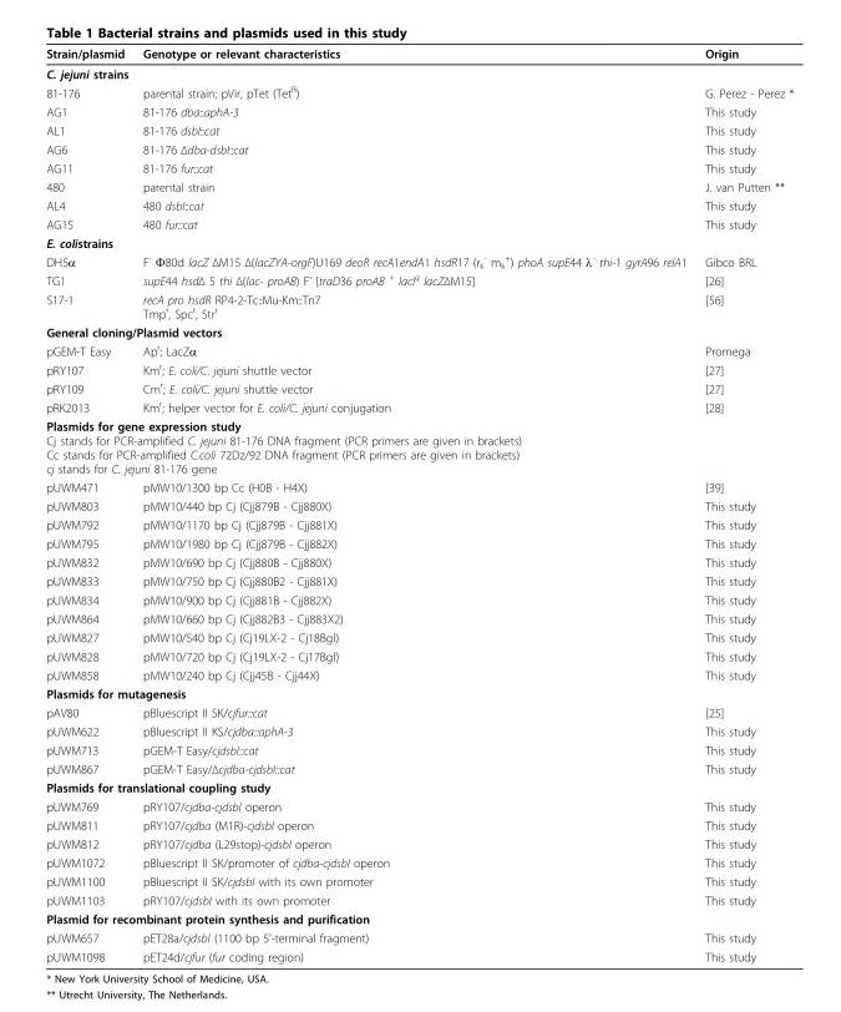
<table><thead><tr><td>Strain/plasmid</td><td>Genotype or relevant characteristics</td><td>Origin</td></tr></thead><tbody><tr><td colspan="3">C. jejuni strains</td></tr><tr><td>81-176</td><td>parental strain; pVir, pTet (Tet<sup>R</sup>)</td><td>G. Perez - Perez *</td></tr><tr><td>AG1</td><td>81-176 dba::aphA-3</td><td>This study</td></tr><tr><td>AL1</td><td>81-176 dsbI::cat</td><td>This study</td></tr><tr><td>AG6</td><td>81-176 Δdba-dsbI::cat</td><td>This study</td></tr><tr><td>AG11</td><td>81-176 fur::cat</td><td>This study</td></tr><tr><td>480</td><td>parental strain</td><td>J. van Putten **</td></tr><tr><td>AL4</td><td>480 dsbI::cat</td><td>This study</td></tr><tr><td>AG15</td><td>480 fur::cat</td><td>This study</td></tr><tr><td colspan="3">E. colistrains</td></tr><tr><td>DH5α</td><td>F<sup>-</sup> Φ80d lacZ ΔM15 Δ(lacZYA-orgF)U169 deoR recA1endA1 hsdR17 (r<sub>k</sub> <sup>-</sup> m<sub>k</sub> <sup>+</sup>) phoA supE44 λ<sup>-</sup> thi-1 gyrA96 relA1</td><td>Gibco BRL</td></tr><tr><td>TG1</td><td>supE44 hsdΔ 5 thi Δ(lac- proAB) F’ [traD36 proAB <sup>+</sup> lacI<sup>q</sup> lacZΔM15]</td><td>[26]</td></tr><tr><td>S17-1</td><td>recA pro hsdR RP4-2-Tc::Mu-Km::Tn7 Tmp<sup>r</sup>, Spc<sup>r</sup>, Str<sup>r</sup></td><td>[56]</td></tr><tr><td colspan="3">General cloning/Plasmid vectors</td></tr><tr><td>pGEM-T Easy</td><td>Ap<sup>r</sup>; LacZα</td><td>Promega</td></tr><tr><td>pRY107</td><td>Km<sup>r</sup>; E. coli/C. jejuni shuttle vector</td><td>[27]</td></tr><tr><td>pRY109</td><td>Cm<sup>r</sup>; E. coli/C. jejuni shuttle vector</td><td>[27]</td></tr><tr><td>pRK2013</td><td>Km<sup>r</sup>; helper vector for E. coli/C. jejuni conjugation</td><td>[28]</td></tr><tr><td colspan="3">Plasmids for gene expression study Cj stands for PCR-amplified C. jejuni 81-176 DNA fragment (PCR primers are given in brackets) Cc stands for PCR-amplified C.coli 72Dz/92 DNA fragment (PCR primers are given in brackets) cj stands for C. jejuni 81-176 gene</td></tr><tr><td>pUWM471</td><td>pMW10/1300 bp Cc (H0B - H4X)</td><td>[39]</td></tr><tr><td>pUWM803</td><td>pMW10/440 bp Cj (Cjj879B - Cjj880X)</td><td>This study</td></tr><tr><td>pUWM792</td><td>pMW10/1170 bp Cj (Cjj879B - Cjj881X)</td><td>This study</td></tr><tr><td>pUWM795</td><td>pMW10/1980 bp Cj (Cjj879B - Cjj882X)</td><td>This study</td></tr><tr><td>pUWM832</td><td>pMW10/690 bp Cj (Cjj880B - Cjj880X)</td><td>This study</td></tr><tr><td>pUWM833</td><td>pMW10/750 bp Cj (Cjj880B2 - Cjj881X)</td><td>This study</td></tr><tr><td>pUWM834</td><td>pMW10/900 bp Cj (Cjj881B - Cjj882X)</td><td>This study</td></tr><tr><td>pUWM864</td><td>pMW10/660 bp Cj (Cjj882B3 - Cjj883X2)</td><td>This study</td></tr><tr><td>pUWM827</td><td>pMW10/540 bp Cj (Cj19LX-2 - Cj18Bgl)</td><td>This study</td></tr><tr><td>pUWM828</td><td>pMW10/720 bp Cj (Cj19LX-2 - Cj17Bgl)</td><td>This study</td></tr><tr><td>pUWM858</td><td>pMW10/240 bp Cj (Cjj45B - Cjj44X)</td><td>This study</td></tr><tr><td colspan="3">Plasmids for mutagenesis</td></tr><tr><td>pAV80</td><td>pBluescript II SK/cjfur::cat</td><td>[25]</td></tr><tr><td>pUWM622</td><td>pBluescript II KS/cjdba::aphA-3</td><td>This study</td></tr><tr><td>pUWM713</td><td>pGEM-T Easy/cjdsbI::cat</td><td>This study</td></tr><tr><td>pUWM867</td><td>pGEM-T Easy/Δcjdba-cjdsbI::cat</td><td>This study</td></tr><tr><td colspan="3">Plasmids for translational coupling study</td></tr><tr><td>pUWM769</td><td>pRY107/cjdba-cjdsbI operon</td><td>This study</td></tr><tr><td>pUWM811</td><td>pRY107/cjdba (M1R)-cjdsbI operon</td><td>This study</td></tr><tr><td>pUWM812</td><td>pRY107/cjdba (L29stop)-cjdsbI operon</td><td>This study</td></tr><tr><td>pUWM1072</td><td>pBluescript II SK/promoter of cjdba-cjdsbI operon</td><td>This study</td></tr><tr><td>pUWM1100</td><td>pBluescript II SK/cjdsbI with its own promoter</td><td>This study</td></tr><tr><td>pUWM1103</td><td>pRY107/cjdsbI with its own promoter</td><td>This study</td></tr><tr><td colspan="3">Plasmid for recombinant protein synthesis and purification</td></tr><tr><td>pUWM657</td><td>pET28a/cjdsbI (1100 bp 5’-terminal fragment)</td><td>This study</td></tr><tr><td>pUWM1098</td><td>pET24d/cjfur (fur coding region)</td><td>This study</td></tr></tbody></table>